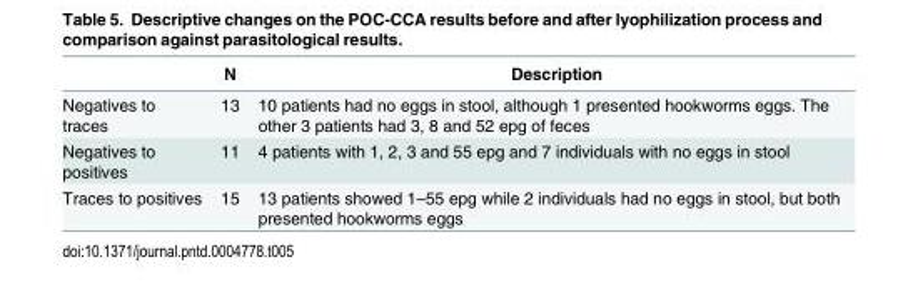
<table><thead><tr><td></td><td>N</td><td>Description</td></tr></thead><tbody><tr><td>Negatives to traces</td><td>13</td><td>10 patients had no eggs in stool, although 1 presented hookworms eggs. The other 3 patients had 3, 8 and 52 epg of feces</td></tr><tr><td>Negatives to positives</td><td>11</td><td>4 patients with 1, 2, 3 and 55 epg and 7 individuals with no eggs in stool</td></tr><tr><td>Traces to positives</td><td>15</td><td>13 patients showed 1–55 epg while 2 individuals had no eggs in stool, but both presented hookworms eggs</td></tr></tbody></table>